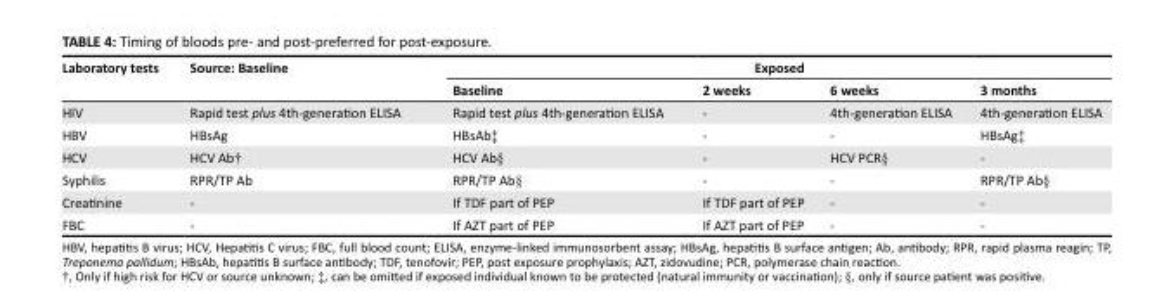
<table><thead><tr><td rowspan="2">Laboratory tests</td><td rowspan="2">Source: Baseline</td><td colspan="4">Exposed</td></tr><tr><td>Baseline</td><td>2 weeks</td><td>6 weeks</td><td>3 months</td></tr></thead><tbody><tr><td>HIV</td><td>Rapid test plus 4th-generation ELISA</td><td>Rapid test plus 4th-generation ELISA</td><td>-</td><td>4th-generation ELISA</td><td>4th-generation ELISA</td></tr><tr><td>HBV</td><td>HBsAg</td><td>HBsAb‡</td><td>-</td><td>-</td><td>HBsAg‡</td></tr><tr><td>HCV</td><td>HCV Ab†</td><td>HCV Ab§</td><td>-</td><td>HCV PCR§</td><td>-</td></tr><tr><td>Syphilis</td><td>RPR/TP Ab</td><td>RPR/TP Ab§</td><td>-</td><td>-</td><td>RPR/TP Ab§</td></tr><tr><td>Creatinine</td><td>-</td><td>If TDF part of PEP</td><td>If TDF part of PEP</td><td>-</td><td>-</td></tr><tr><td>FBC</td><td>-</td><td>If AZT part of PEP</td><td>If AZT part of PEP</td><td>-</td><td>-</td></tr></tbody></table>